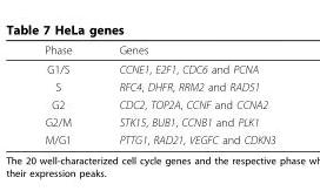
<table><thead><tr><td>Phase</td><td>Genes</td></tr></thead><tbody><tr><td>G1/S</td><td>CCNE1, E2F1, CDC6 and PCNA</td></tr><tr><td>S</td><td>RFC4, DHFR, RRM2 and RAD51</td></tr><tr><td>G2</td><td>CDC2, TOP2A, CCNF and CCNA2</td></tr><tr><td>G2/M</td><td>STK15, BUB1, CCNB1 and PLK1</td></tr><tr><td>M/G1</td><td>PTTG1, RAD21, VEGFC and CDKN3</td></tr></tbody></table>